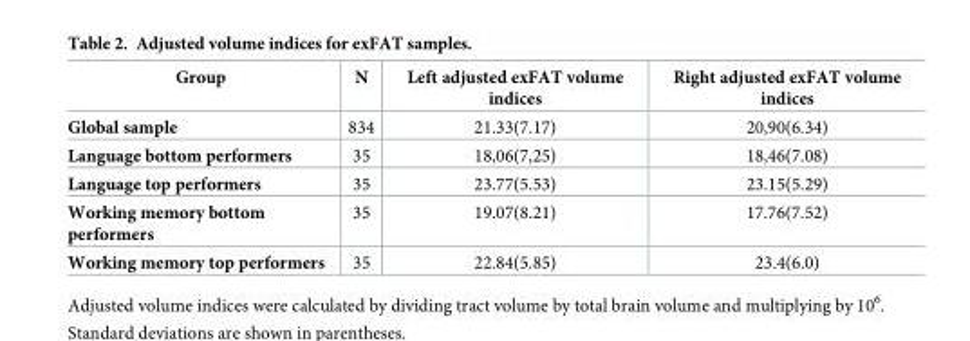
<table><thead><tr><td>Group</td><td>N</td><td>Left adjusted exFAT volume indices</td><td>Right adjusted exFAT volume indices</td></tr></thead><tbody><tr><td>Global sample</td><td>834</td><td>21.33(7.17)</td><td>20,90(6.34)</td></tr><tr><td>Language bottom performers</td><td>35</td><td>18,06(7,25)</td><td>18,46(7.08)</td></tr><tr><td>Language top performers</td><td>35</td><td>23.77(5.53)</td><td>23.15(5.29)</td></tr><tr><td>Working memory bottom performers</td><td>35</td><td>19.07(8.21)</td><td>17.76(7.52)</td></tr><tr><td>Working memory top performers</td><td>35</td><td>22.84(5.85)</td><td>23.4(6.0)</td></tr></tbody></table>